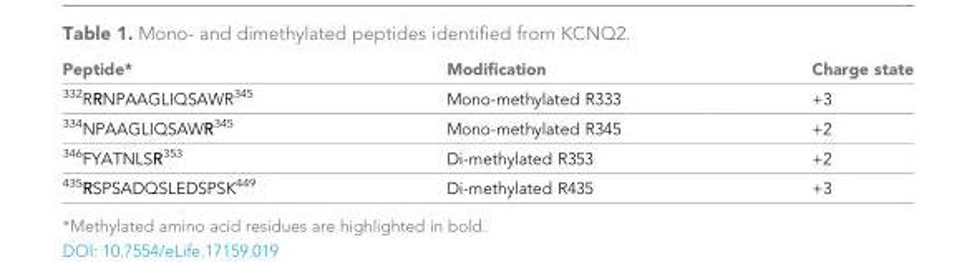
<table><thead><tr><td>Peptide*</td><td>Modification</td><td>Charge state</td></tr></thead><tbody><tr><td><sup>332</sup>RRNPAAGLIQSAWR<sup>345</sup></td><td>Mono-methylated R333</td><td>+3</td></tr><tr><td><sup>334</sup>NPAAGLIQSAWR<sup>345</sup></td><td>Mono-methylated R345</td><td>+2</td></tr><tr><td><sup>346</sup>FYATNLSR<sup>353</sup></td><td>Di-methylated R353</td><td>+2</td></tr><tr><td><sup>435</sup>RSPSADQSLEDSPSK<sup>449</sup></td><td>Di-methylated R435</td><td>+3</td></tr></tbody></table>